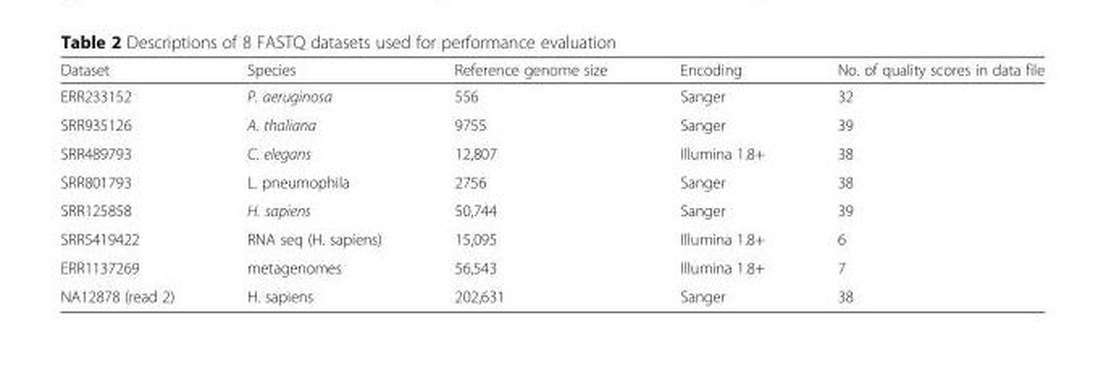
<table><thead><tr><td>Dataset</td><td>Species</td><td>Reference genome size</td><td>Encoding</td><td>No. of quality scores in data file</td></tr></thead><tbody><tr><td>ERR233152</td><td>P. aeruginosa</td><td>556</td><td>Sanger</td><td>32</td></tr><tr><td>SRR935126</td><td>A. thaliana</td><td>9755</td><td>Sanger</td><td>39</td></tr><tr><td>SRR489793</td><td>C. elegans</td><td>12,807</td><td>Illumina 1.8+</td><td>38</td></tr><tr><td>SRR801793</td><td>L. pneumophila</td><td>2756</td><td>Sanger</td><td>38</td></tr><tr><td>SRR125858</td><td>H. sapiens</td><td>50,744</td><td>Sanger</td><td>39</td></tr><tr><td>SRR5419422</td><td>RNA seq (H. sapiens)</td><td>15,095</td><td>Illumina 1.8+</td><td>6</td></tr><tr><td>ERR1137269</td><td>metagenomes</td><td>56,543</td><td>Illumina 1.8+</td><td>7</td></tr><tr><td>NA12878 (read 2)</td><td>H. sapiens</td><td>202,631</td><td>Sanger</td><td>38</td></tr></tbody></table>